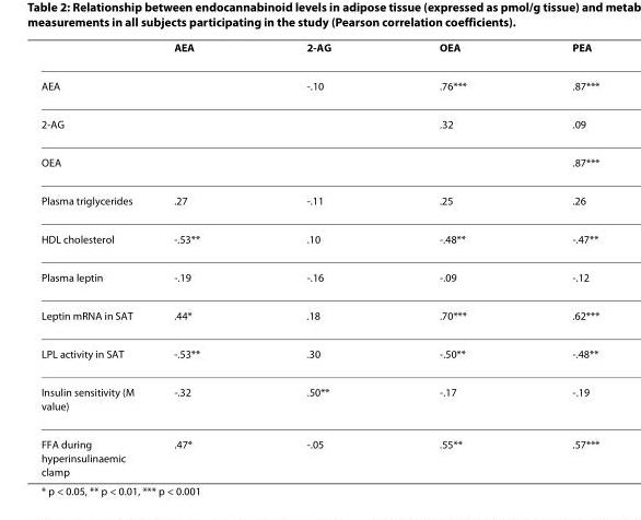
<table><thead><tr><td></td><td>AEA</td><td>2-AG</td><td>OEA</td><td>PEA</td></tr></thead><tbody><tr><td>AEA</td><td></td><td>-.10</td><td>.76***</td><td>.87***</td></tr><tr><td>2-AG</td><td></td><td></td><td>.32</td><td>.09</td></tr><tr><td>OEA</td><td></td><td></td><td></td><td>.87***</td></tr><tr><td>Plasma triglycerides</td><td>.27</td><td>-.11</td><td>.25</td><td>.26</td></tr><tr><td>HDL cholesterol</td><td>-.53**</td><td>.10</td><td>-.48**</td><td>-.47**</td></tr><tr><td>Plasma leptin</td><td>-.19</td><td>-.16</td><td>-.09</td><td>-.12</td></tr><tr><td>Leptin mRNA in SAT</td><td>.44*</td><td>.18</td><td>.70***</td><td>.62***</td></tr><tr><td>LPL activity in SAT</td><td>-.53**</td><td>.30</td><td>-.50**</td><td>-.48**</td></tr><tr><td>Insulin sensitivity (M value)</td><td>-.32</td><td>.50**</td><td>-.17</td><td>-.19</td></tr><tr><td>FFA during hyperinsulinaemic clamp</td><td>.47*</td><td>-.05</td><td>.55**</td><td>.57***</td></tr></tbody></table>